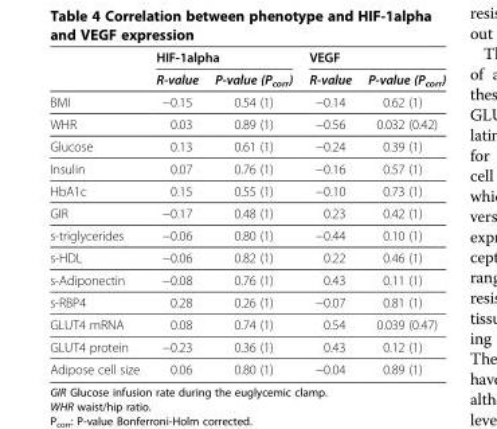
<table><thead><tr><td rowspan="2"></td><td colspan="2">HIF-1alpha</td><td colspan="2">VEGF</td></tr><tr><td>R-value</td><td>P-value (P<sub>corr</sub>)</td><td>R-value</td><td>P-value (P<sub>corr</sub>)</td></tr></thead><tbody><tr><td>BMI</td><td>−0.15</td><td>0.54 (1)</td><td>−0.14</td><td>0.62 (1)</td></tr><tr><td>WHR</td><td>0.03</td><td>0.89 (1)</td><td>−0.56</td><td>0.032 (0.42)</td></tr><tr><td>Glucose</td><td>0.13</td><td>0.61 (1)</td><td>−0.24</td><td>0.39 (1)</td></tr><tr><td>Insulin</td><td>0.07</td><td>0.76 (1)</td><td>−0.16</td><td>0.57 (1)</td></tr><tr><td>HbA1c</td><td>0.15</td><td>0.55 (1)</td><td>−0.10</td><td>0.73 (1)</td></tr><tr><td>GIR</td><td>−0.17</td><td>0.48 (1)</td><td>0.23</td><td>0.42 (1)</td></tr><tr><td>s-triglycerides</td><td>−0.06</td><td>0.80 (1)</td><td>−0.44</td><td>0.10 (1)</td></tr><tr><td>s-HDL</td><td>−0.06</td><td>0.82 (1)</td><td>0.22</td><td>0.46 (1)</td></tr><tr><td>s-Adiponectin</td><td>−0.08</td><td>0.76 (1)</td><td>0.43</td><td>0.11 (1)</td></tr><tr><td>s-RBP4</td><td>0.28</td><td>0.26 (1)</td><td>−0.07</td><td>0.81 (1)</td></tr><tr><td>GLUT4 mRNA</td><td>0.08</td><td>0.74 (1)</td><td>0.54</td><td>0.039 (0.47)</td></tr><tr><td>GLUT4 protein</td><td>−0.23</td><td>0.36 (1)</td><td>0.43</td><td>0.12 (1)</td></tr><tr><td>Adipose cell size</td><td>0.06</td><td>0.80 (1)</td><td>−0.04</td><td>0.89 (1)</td></tr></tbody></table>